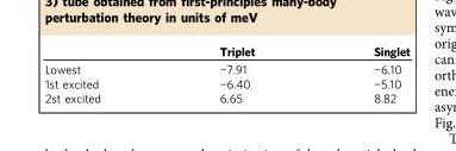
<table><thead><tr><td></td><td>Triplet</td><td>Singlet</td></tr></thead><tbody><tr><td>Lowest</td><td>−7.91</td><td>−6.10</td></tr><tr><td>1st excited</td><td>−6.40</td><td>−5.10</td></tr><tr><td>2st excited</td><td>6.65</td><td>8.82</td></tr></tbody></table>